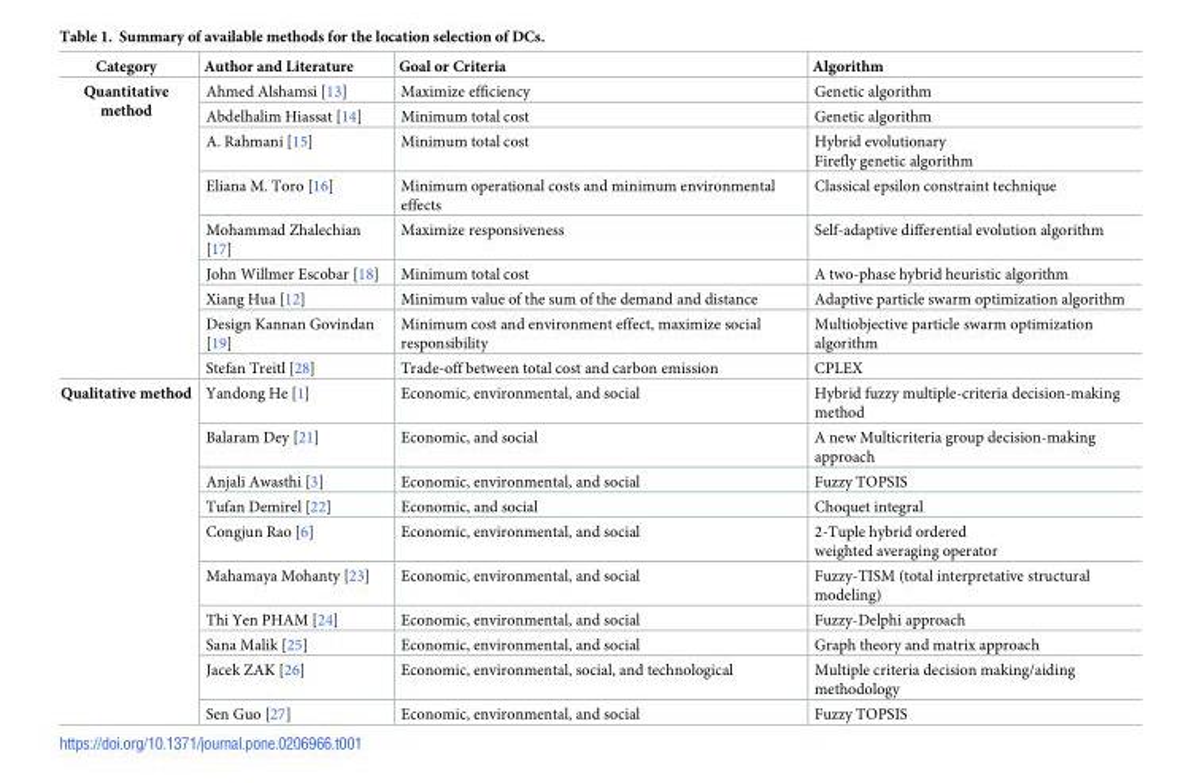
<table><thead><tr><td>Category</td><td>Author and Literature</td><td>Goal or Criteria</td><td>Algorithm</td></tr></thead><tbody><tr><td rowspan="9">Quantitative method</td><td>Ahmed Alshamsi [13]</td><td>Maximize efficiency</td><td>Genetic algorithm</td></tr><tr><td>Abdelhalim Hiassat [14]</td><td>Minimum total cost</td><td>Genetic algorithm</td></tr><tr><td>A. Rahmani [15]</td><td>Minimum total cost</td><td>Hybrid evolutionary Firefly genetic algorithm</td></tr><tr><td>Eliana M. Toro [16]</td><td>Minimum operational costs and minimum environmental effects</td><td>Classical epsilon constraint technique</td></tr><tr><td>Mohammad Zhalechian [17]</td><td>Maximize responsiveness</td><td>Self-adaptive differential evolution algorithm</td></tr><tr><td>John Willmer Escobar [18]</td><td>Minimum total cost</td><td>A two-phase hybrid heuristic algorithm</td></tr><tr><td>Xiang Hua [12]</td><td>Minimum value of the sum of the demand and distance</td><td>Adaptive particle swarm optimization algorithm</td></tr><tr><td>Design Kannan Govindan [19]</td><td>Minimum cost and environment effect, maximize social responsibility</td><td>Multiobjective particle swarm optimization algorithm</td></tr><tr><td>Stefan Treitl [28]</td><td>Trade-off between total cost and carbon emission</td><td>CPLEX</td></tr><tr><td rowspan="10">Qualitative method</td><td>Yandong He [1]</td><td>Economic, environmental, and social</td><td>Hybrid fuzzy multiple-criteria decision-making method</td></tr><tr><td>Balaram Dey [21]</td><td>Economic, and social</td><td>A new Multicriteria group decision-making approach</td></tr><tr><td>Anjali Awasthi [3]</td><td>Economic, environmental, and social</td><td>Fuzzy TOPSIS</td></tr><tr><td>Tufan Demirel [22]</td><td>Economic, and social</td><td>Choquet integral</td></tr><tr><td>Congjun Rao [6]</td><td>Economic, environmental, and social</td><td>2-Tuple hybrid ordered weighted averaging operator</td></tr><tr><td>Mahamaya Mohanty [23]</td><td>Economic, environmental, and social</td><td>Fuzzy-TISM (total interpretative structural modeling)</td></tr><tr><td>Thi Yen PHAM [24]</td><td>Economic, environmental, and social</td><td>Fuzzy-Delphi approach</td></tr><tr><td>Sana Malik [25]</td><td>Economic, environmental, and social</td><td>Graph theory and matrix approach</td></tr><tr><td>Jacek ZAK [26]</td><td>Economic, environmental, social, and technological</td><td>Multiple criteria decision making/aiding methodology</td></tr><tr><td>Sen Guo [27]</td><td>Economic, environmental, and social</td><td>Fuzzy TOPSIS</td></tr></tbody></table>